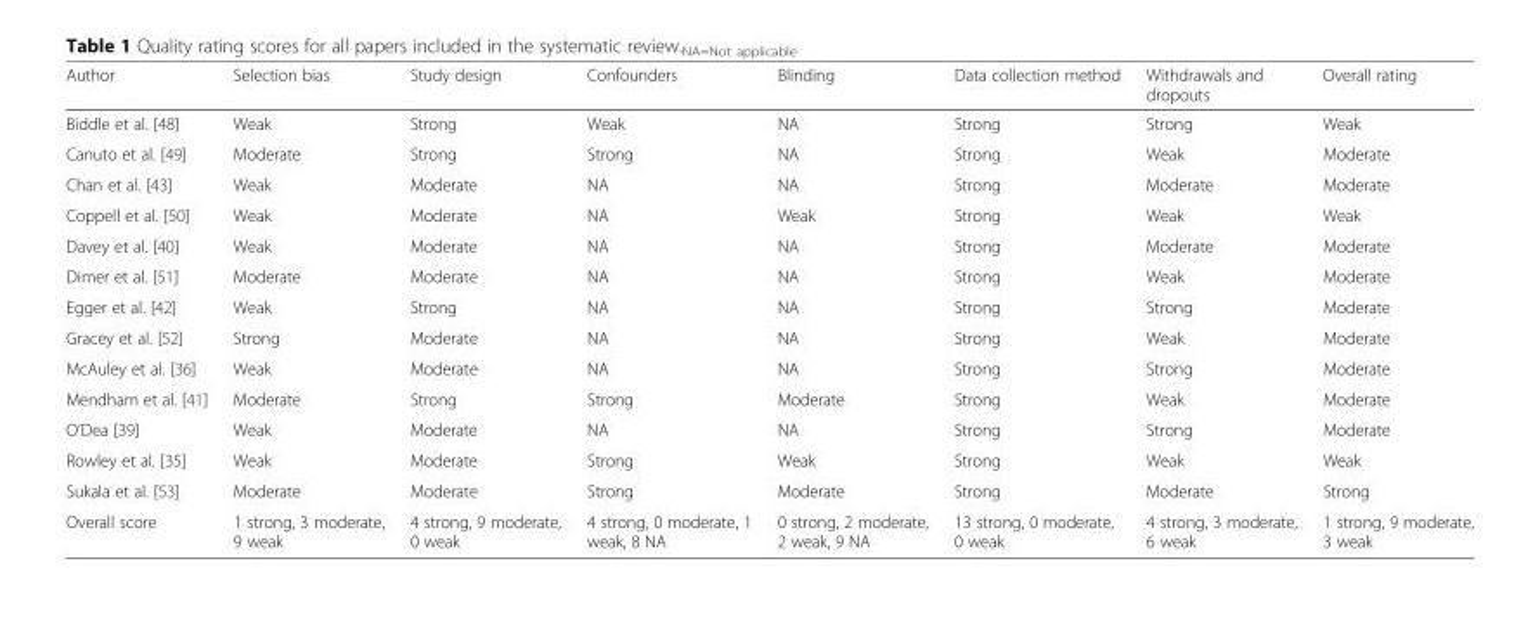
<table><thead><tr><td>Author</td><td>Selection bias</td><td>Study design</td><td>Confounders</td><td>Blinding</td><td>Data collection method</td><td>Withdrawals and dropouts</td><td>Overall rating</td></tr></thead><tbody><tr><td>Biddle et al. [48]</td><td>Weak</td><td>Strong</td><td>Weak</td><td>NA</td><td>Strong</td><td>Strong</td><td>Weak</td></tr><tr><td>Canuto et al. [49]</td><td>Moderate</td><td>Strong</td><td>Strong</td><td>NA</td><td>Strong</td><td>Weak</td><td>Moderate</td></tr><tr><td>Chan et al. [43]</td><td>Weak</td><td>Moderate</td><td>NA</td><td>NA</td><td>Strong</td><td>Moderate</td><td>Moderate</td></tr><tr><td>Coppell et al. [50]</td><td>Weak</td><td>Moderate</td><td>NA</td><td>Weak</td><td>Strong</td><td>Weak</td><td>Weak</td></tr><tr><td>Davey et al. [40]</td><td>Weak</td><td>Moderate</td><td>NA</td><td>NA</td><td>Strong</td><td>Moderate</td><td>Moderate</td></tr><tr><td>Dimer et al. [51]</td><td>Moderate</td><td>Moderate</td><td>NA</td><td>NA</td><td>Strong</td><td>Weak</td><td>Moderate</td></tr><tr><td>Egger et al. [42]</td><td>Weak</td><td>Strong</td><td>NA</td><td>NA</td><td>Strong</td><td>Strong</td><td>Moderate</td></tr><tr><td>Gracey et al. [52]</td><td>Strong</td><td>Moderate</td><td>NA</td><td>NA</td><td>Strong</td><td>Weak</td><td>Moderate</td></tr><tr><td>McAuley et al. [36]</td><td>Weak</td><td>Moderate</td><td>NA</td><td>NA</td><td>Strong</td><td>Strong</td><td>Moderate</td></tr><tr><td>Mendham et al. [41]</td><td>Moderate</td><td>Strong</td><td>Strong</td><td>Moderate</td><td>Strong</td><td>Weak</td><td>Moderate</td></tr><tr><td>O’Dea [39]</td><td>Weak</td><td>Moderate</td><td>NA</td><td>NA</td><td>Strong</td><td>Strong</td><td>Moderate</td></tr><tr><td>Rowley et al. [35]</td><td>Weak</td><td>Moderate</td><td>Strong</td><td>Weak</td><td>Strong</td><td>Weak</td><td>Weak</td></tr><tr><td>Sukala et al. [53]</td><td>Moderate</td><td>Moderate</td><td>Strong</td><td>Moderate</td><td>Strong</td><td>Moderate</td><td>Strong</td></tr><tr><td>Overall score</td><td>1 strong, 3 moderate, 9 weak</td><td>4 strong, 9 moderate, 0 weak</td><td>4 strong, 0 moderate, 1 weak, 8 NA</td><td>0 strong, 2 moderate, 2 weak, 9 NA</td><td>13 strong, 0 moderate, 0 weak</td><td>4 strong, 3 moderate, 6 weak</td><td>1 strong, 9 moderate, 3 weak</td></tr></tbody></table>